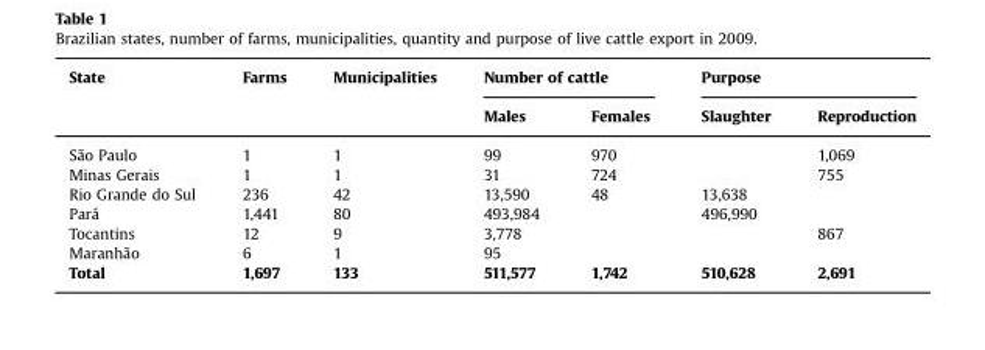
<table><thead><tr><td rowspan="2">State</td><td rowspan="2">Farms</td><td rowspan="2">Municipalities</td><td colspan="2">Number of cattle</td><td colspan="2">Purpose</td></tr><tr><td>Males</td><td>Females</td><td>Slaughter</td><td>Reproduction</td></tr></thead><tbody><tr><td>São Paulo</td><td>1</td><td>1</td><td>99</td><td>970</td><td></td><td>1,069</td></tr><tr><td>Minas Gerais</td><td>1</td><td>1</td><td>31</td><td>724</td><td></td><td>755</td></tr><tr><td>Rio Grande do Sul</td><td>236</td><td>42</td><td>13,590</td><td>48</td><td>13,638</td><td></td></tr><tr><td>Pará</td><td>1,441</td><td>80</td><td>493,984</td><td></td><td>496,990</td><td></td></tr><tr><td>Tocantins</td><td>12</td><td>9</td><td>3,778</td><td></td><td></td><td>867</td></tr><tr><td>Maranhão</td><td>6</td><td>1</td><td>95</td><td></td><td></td><td></td></tr><tr><td>Total</td><td>1,697</td><td>133</td><td>511,577</td><td>1,742</td><td>510,628</td><td>2,691</td></tr></tbody></table>